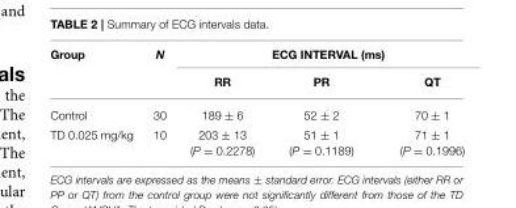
<table><thead><tr><td rowspan="2">Group</td><td rowspan="2">N</td><td colspan="3">ECG INTERVAL (ms)</td></tr><tr><td>RR</td><td>PR</td><td>QT</td></tr></thead><tbody><tr><td>Control</td><td>30</td><td>189 ± 6</td><td>52 ± 2</td><td>70 ± 1</td></tr><tr><td>TD 0.025 mg/kg</td><td>10</td><td>203 ± 13 (P = 0.2278)</td><td>51 ± 1 (P = 0.1189)</td><td>71 ± 1 (P = 0.1996)</td></tr></tbody></table>